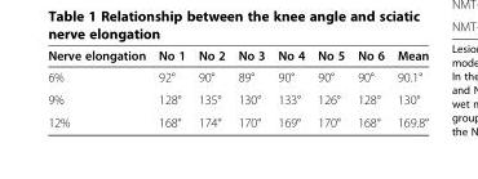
<table><thead><tr><td>Nerve elongation</td><td>No 1</td><td>No 2</td><td>No 3</td><td>No 4</td><td>No 5</td><td>No 6</td><td>Mean</td></tr></thead><tbody><tr><td>6%</td><td>92°</td><td>90°</td><td>89°</td><td>90°</td><td>90°</td><td>90°</td><td>90.1°</td></tr><tr><td>9%</td><td>128°</td><td>135°</td><td>130°</td><td>133°</td><td>126°</td><td>128°</td><td>130°</td></tr><tr><td>12%</td><td>168°</td><td>174°</td><td>170°</td><td>169°</td><td>170°</td><td>168°</td><td>169.8°</td></tr></tbody></table>